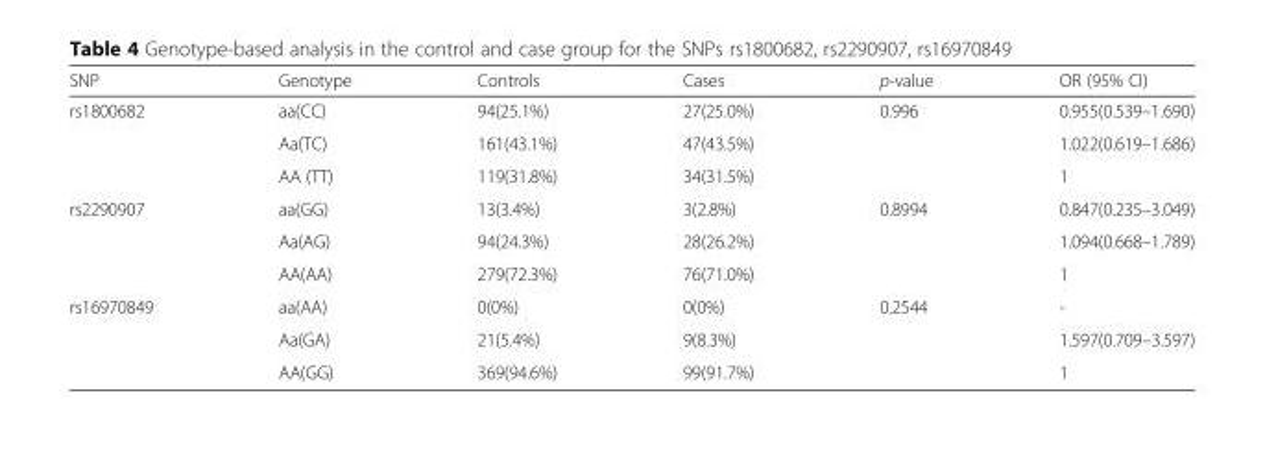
<table><thead><tr><td>SNP</td><td>Genotype</td><td>Controls</td><td>Cases</td><td>p-value</td><td>OR (95% CI)</td></tr></thead><tbody><tr><td rowspan="3">rs1800682</td><td>aa(CC)</td><td>94(25.1%)</td><td>27(25.0%)</td><td rowspan="3">0.996</td><td>0.955(0.539–1.690)</td></tr><tr><td>Aa(TC)</td><td>161(43.1%)</td><td>47(43.5%)</td><td>1.022(0.619–1.686)</td></tr><tr><td>AA (TT)</td><td>119(31.8%)</td><td>34(31.5%)</td><td>1</td></tr><tr><td rowspan="3">rs2290907</td><td>aa(GG)</td><td>13(3.4%)</td><td>3(2.8%)</td><td rowspan="3">0.8994</td><td>0.847(0.235–3.049)</td></tr><tr><td>Aa(AG)</td><td>94(24.3%)</td><td>28(26.2%)</td><td>1.094(0.668–1.789)</td></tr><tr><td>AA(AA)</td><td>279(72.3%)</td><td>76(71.0%)</td><td>1</td></tr><tr><td rowspan="3">rs16970849</td><td>aa(AA)</td><td>0(0%)</td><td>0(0%)</td><td rowspan="3">0.2544</td><td>-</td></tr><tr><td>Aa(GA)</td><td>21(5.4%)</td><td>9(8.3%)</td><td>1.597(0.709–3.597)</td></tr><tr><td>AA(GG)</td><td>369(94.6%)</td><td>99(91.7%)</td><td>1</td></tr></tbody></table>